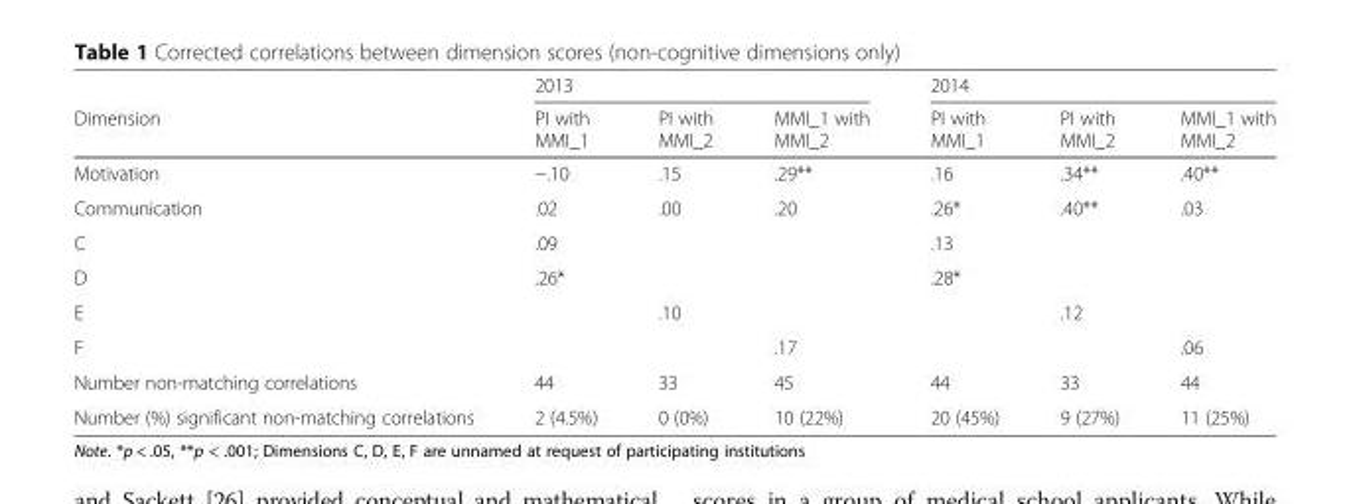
<table><thead><tr><td rowspan="2">Dimension</td><td colspan="3">2013</td><td colspan="3">2014</td></tr><tr><td>PI with MMI_1</td><td>PI with MMI_2</td><td>MMI_1 with MMI_2</td><td>PI with MMI_1</td><td>PI with MMI_2</td><td>MMI_1 with MMI_2</td></tr></thead><tbody><tr><td>Motivation</td><td>−.10</td><td>.15</td><td>.29**</td><td>.16</td><td>.34**</td><td>.40**</td></tr><tr><td>Communication</td><td>.02</td><td>.00</td><td>.20</td><td>.26*</td><td>.40**</td><td>.03</td></tr><tr><td>C</td><td>.09</td><td></td><td></td><td>.13</td><td></td><td></td></tr><tr><td>D</td><td>.26*</td><td></td><td></td><td>.28*</td><td></td><td></td></tr><tr><td>E</td><td></td><td>.10</td><td></td><td></td><td>.12</td><td></td></tr><tr><td>F</td><td></td><td></td><td>.17</td><td></td><td></td><td>.06</td></tr><tr><td>Number non-matching correlations</td><td>44</td><td>33</td><td>45</td><td>44</td><td>33</td><td>44</td></tr><tr><td>Number (%) significant non-matching correlations</td><td>2 (4.5%)</td><td>0 (0%)</td><td>10 (22%)</td><td>20 (45%)</td><td>9 (27%)</td><td>11 (25%)</td></tr></tbody></table>